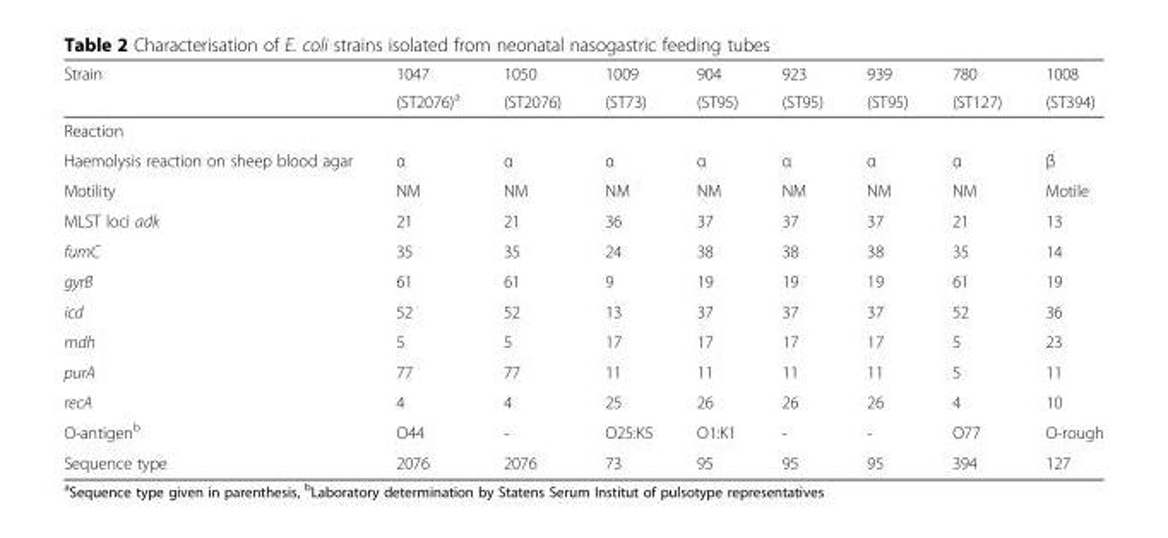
<table><thead><tr><td rowspan="2">Strain</td><td rowspan="2">1047 (ST2076)<sup>a</sup></td><td rowspan="2">1050 (ST2076)</td><td rowspan="2">1009 (ST73)</td><td rowspan="2">904 (ST95)</td><td rowspan="2">923 (ST95)</td><td rowspan="2">939 (ST95)</td><td rowspan="2">780 (ST127)</td><td rowspan="2">1008 (ST394)</td></tr><tr></tr></thead><tbody><tr><td colspan="9">Reaction</td></tr><tr><td>Haemolysis reaction on sheep blood agar</td><td>α</td><td>α</td><td>α</td><td>α</td><td>α</td><td>α</td><td>α</td><td>β</td></tr><tr><td>Motility</td><td>NM</td><td>NM</td><td>NM</td><td>NM</td><td>NM</td><td>NM</td><td>NM</td><td>Motile</td></tr><tr><td>MLST loci adk</td><td>21</td><td>21</td><td>36</td><td>37</td><td>37</td><td>37</td><td>21</td><td>13</td></tr><tr><td>fumC</td><td>35</td><td>35</td><td>24</td><td>38</td><td>38</td><td>38</td><td>35</td><td>14</td></tr><tr><td>gyrB</td><td>61</td><td>61</td><td>9</td><td>19</td><td>19</td><td>19</td><td>61</td><td>19</td></tr><tr><td>icd</td><td>52</td><td>52</td><td>13</td><td>37</td><td>37</td><td>37</td><td>52</td><td>36</td></tr><tr><td>mdh</td><td>5</td><td>5</td><td>17</td><td>17</td><td>17</td><td>17</td><td>5</td><td>23</td></tr><tr><td>purA</td><td>77</td><td>77</td><td>11</td><td>11</td><td>11</td><td>11</td><td>5</td><td>11</td></tr><tr><td>recA</td><td>4</td><td>4</td><td>25</td><td>26</td><td>26</td><td>26</td><td>4</td><td>10</td></tr><tr><td>O-antigen<sup>b</sup></td><td>O44</td><td>-</td><td>O25:K5</td><td>O1:K1</td><td>-</td><td>-</td><td>O77</td><td>O-rough</td></tr><tr><td>Sequence type</td><td>2076</td><td>2076</td><td>73</td><td>95</td><td>95</td><td>95</td><td>394</td><td>127</td></tr></tbody></table>